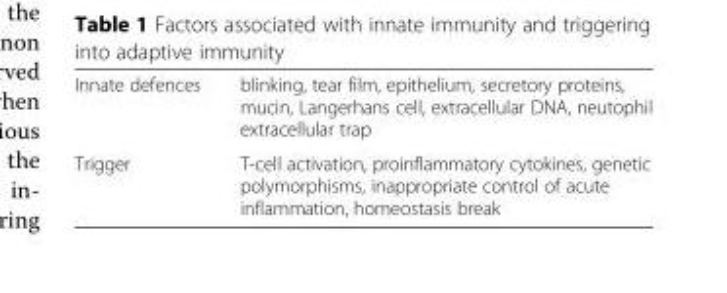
<table><tbody><tr><td>Innate defences</td><td>blinking, tear film, epithelium, secretory proteins, mucin, Langerhans cell, extracellular DNA, neutophil extracellular trap</td></tr><tr><td>Trigger</td><td>T-cell activation, proinflammatory cytokines, genetic polymorphisms, inappropriate control of acute inflammation, homeostasis break</td></tr></tbody></table>